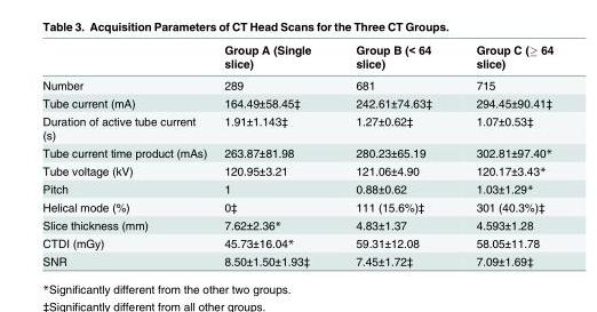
<table><thead><tr><td></td><td>Group A (Single slice)</td><td>Group B (&lt; 64 slice)</td><td>Group C (≥ 64 slice)</td></tr></thead><tbody><tr><td>Number</td><td>289</td><td>681</td><td>715</td></tr><tr><td>Tube current (mA)</td><td>164.49±58.45‡</td><td>242.61±74.63‡</td><td>294.45±90.41‡</td></tr><tr><td>Duration of active tube current (s)</td><td>1.91±1.143‡</td><td>1.27±0.62‡</td><td>1.07±0.53‡</td></tr><tr><td>Tube current time product (mAs)</td><td>263.87±81.98</td><td>280.23±65.19</td><td>302.81±97.40*</td></tr><tr><td>Tube voltage (kV)</td><td>120.95±3.21</td><td>121.06±4.90</td><td>120.17±3.43*</td></tr><tr><td>Pitch</td><td>1</td><td>0.88±0.62</td><td>1.03±1.29*</td></tr><tr><td>Helical mode (%)</td><td>0‡</td><td>111 (15.6%)‡</td><td>301 (40.3%)‡</td></tr><tr><td>Slice thickness (mm)</td><td>7.62±2.36*</td><td>4.83±1.37</td><td>4.593±1.28</td></tr><tr><td>CTDI (mGy)</td><td>45.73±16.04*</td><td>59.31±12.08</td><td>58.05±11.78</td></tr><tr><td>SNR</td><td>8.50±1.50±1.93‡</td><td>7.45±1.72‡</td><td>7.09±1.69‡</td></tr></tbody></table>